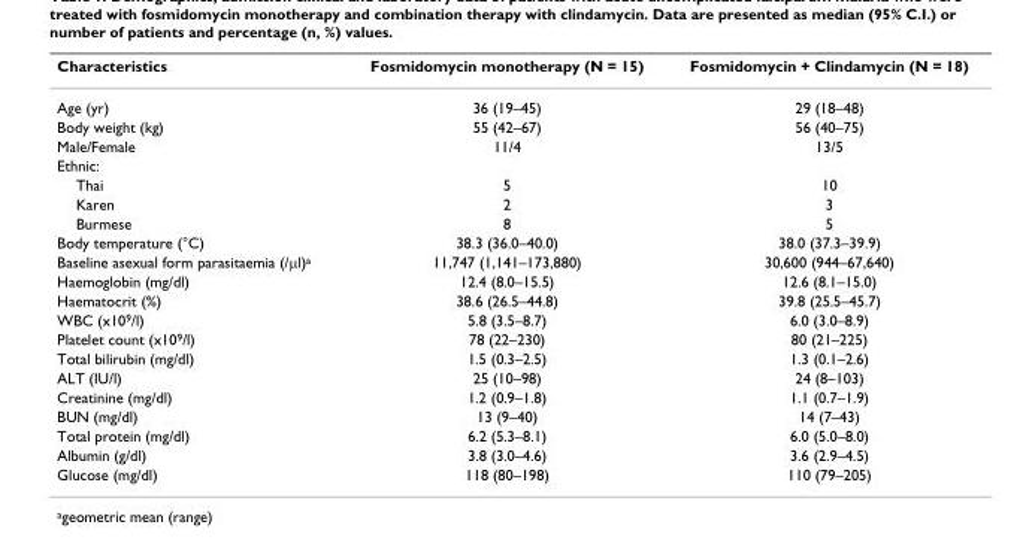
<table><thead><tr><td>Characteristics</td><td>Fosmidomycin monotherapy (N = 15)</td><td>Fosmidomycin + Clindamycin (N = 18)</td></tr></thead><tbody><tr><td>Age (yr)</td><td>36 (19–45)</td><td>29 (18–48)</td></tr><tr><td>Body weight (kg)</td><td>55 (42–67)</td><td>56 (40–75)</td></tr><tr><td>Male/Female</td><td>11/4</td><td>13/5</td></tr><tr><td colspan="3">Ethnic:</td></tr><tr><td>Thai</td><td>5</td><td>10</td></tr><tr><td>Karen</td><td>2</td><td>3</td></tr><tr><td>Burmese</td><td>8</td><td>5</td></tr><tr><td>Body temperature (°C)</td><td>38.3 (36.0–40.0)</td><td>38.0 (37.3–39.9)</td></tr><tr><td>Baseline asexual form parasitaemia (/µl)<sup>a</sup></td><td>11,747 (1,141–173,880)</td><td>30,600 (944–67,640)</td></tr><tr><td>Haemoglobin (mg/dl)</td><td>12.4 (8.0–15.5)</td><td>12.6 (8.1–15.0)</td></tr><tr><td>Haematocrit (%)</td><td>38.6 (26.5–44.8)</td><td>39.8 (25.5–45.7)</td></tr><tr><td>WBC (x10<sup>9</sup>/l)</td><td>5.8 (3.5–8.7)</td><td>6.0 (3.0–8.9)</td></tr><tr><td>Platelet count (x10<sup>9</sup>/l)</td><td>78 (22–230)</td><td>80 (21–225)</td></tr><tr><td>Total bilirubin (mg/dl)</td><td>1.5 (0.3–2.5)</td><td>1.3 (0.1–2.6)</td></tr><tr><td>ALT (IU/l)</td><td>25 (10–98)</td><td>24 (8–103)</td></tr><tr><td>Creatinine (mg/dl)</td><td>1.2 (0.9–1.8)</td><td>1.1 (0.7–1.9)</td></tr><tr><td>BUN (mg/dl)</td><td>13 (9–40)</td><td>14 (7–43)</td></tr><tr><td>Total protein (mg/dl)</td><td>6.2 (5.3–8.1)</td><td>6.0 (5.0–8.0)</td></tr><tr><td>Albumin (g/dl)</td><td>3.8 (3.0–4.6)</td><td>3.6 (2.9–4.5)</td></tr><tr><td>Glucose (mg/dl)</td><td>118 (80–198)</td><td>110 (79–205)</td></tr></tbody></table>